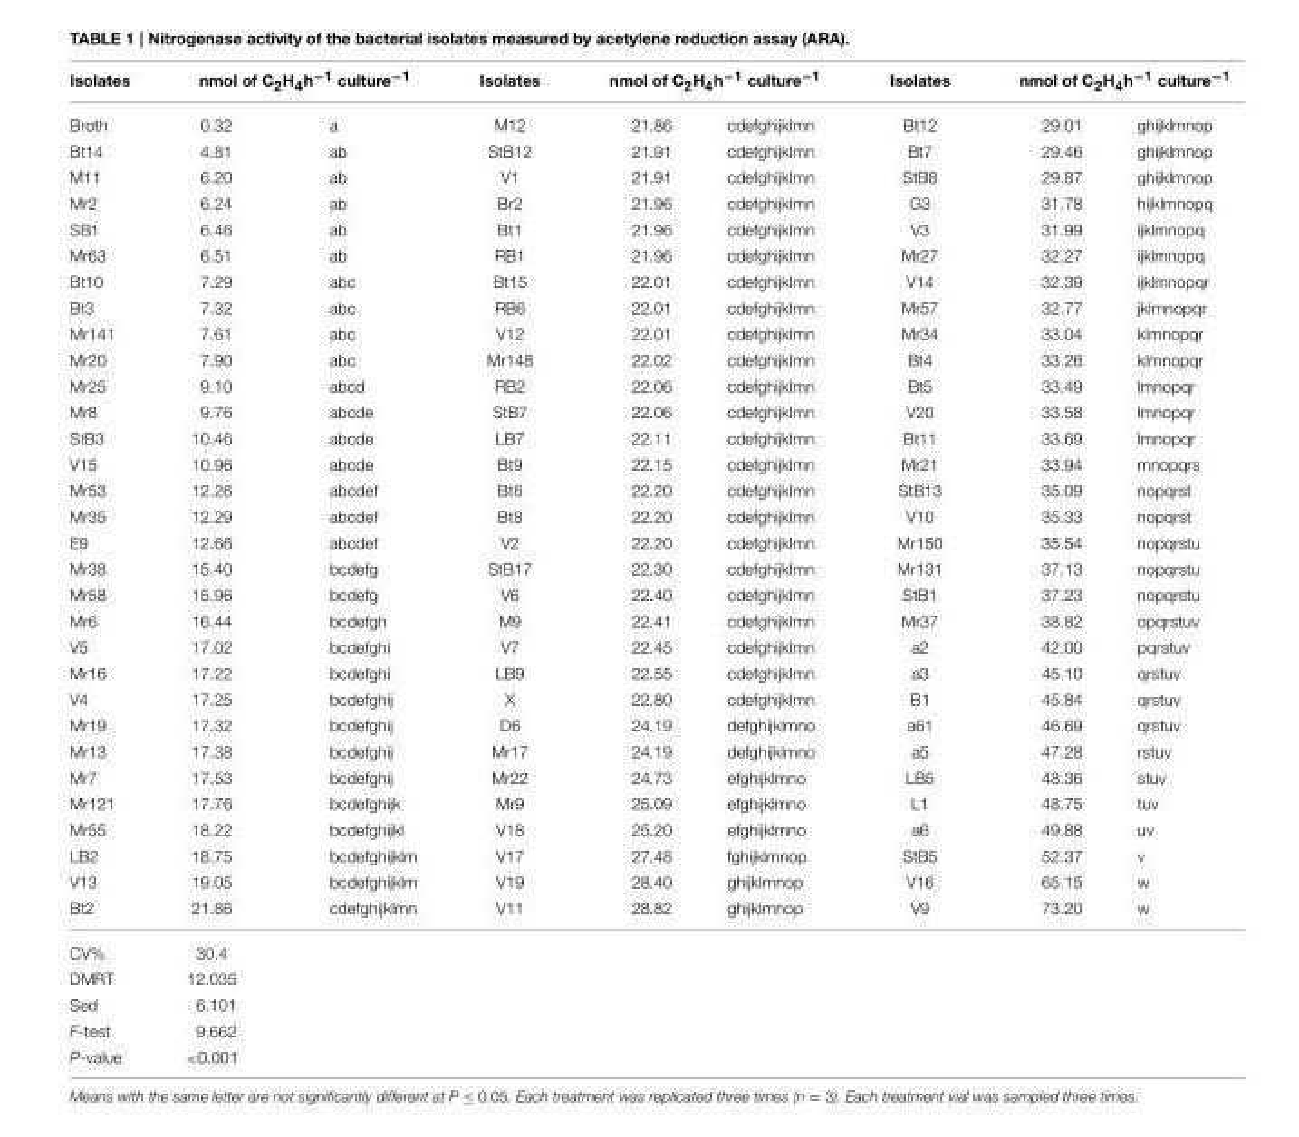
<table><thead><tr><td rowspan="2">Isolates Broth</td><td colspan="2">nmol of C<sub>2</sub>H<sub>4</sub>h<sup>−1</sup> culture<sup>−1</sup></td><td rowspan="2">Isolates M12</td><td colspan="2">nmol of C<sub>2</sub>H<sub>4</sub>h<sup>−1</sup> culture<sup>−1</sup></td><td rowspan="2">Isolates Bt12</td><td colspan="2">nmol of C<sub>2</sub>H<sub>4</sub>h<sup>−1</sup> culture<sup>−1</sup></td></tr><tr><td>0.32</td><td>a</td><td>21.86</td><td>cdefghijklmn</td><td>29.01</td><td>ghijklmnop</td></tr></thead><tbody><tr><td>Bt14</td><td>4.81</td><td>ab</td><td>StB12</td><td>21.91</td><td>cdefghijklmn</td><td>Bt7</td><td>29.46</td><td>ghijklmnop</td></tr><tr><td>M11</td><td>6.20</td><td>ab</td><td>V1</td><td>21.91</td><td>cdefghijklmn</td><td>StB8</td><td>29.87</td><td>ghijklmnop</td></tr><tr><td>Mr2</td><td>6.24</td><td>ab</td><td>Br2</td><td>21.96</td><td>cdefghijklmn</td><td>G3</td><td>31.78</td><td>hijklmnopq</td></tr><tr><td>SB1</td><td>6.46</td><td>ab</td><td>Bt1</td><td>21.96</td><td>cdefghijklmn</td><td>V3</td><td>31.99</td><td>ijklmnopq</td></tr><tr><td>Mr63</td><td>6.51</td><td>ab</td><td>RB1</td><td>21.96</td><td>cdefghijklmn</td><td>Mr27</td><td>32.27</td><td>ijklmnopq</td></tr><tr><td>Bt10</td><td>7.29</td><td>abc</td><td>Bt15</td><td>22.01</td><td>cdefghijklmn</td><td>V14</td><td>32.39</td><td>ijklmnopqr</td></tr><tr><td>Bt3</td><td>7.32</td><td>abc</td><td>RB6</td><td>22.01</td><td>cdefghijklmn</td><td>Mr57</td><td>32.77</td><td>jklmnopqr</td></tr><tr><td>Mr141</td><td>7.61</td><td>abc</td><td>V12</td><td>22.01</td><td>cdefghijklmn</td><td>Mr34</td><td>33.04</td><td>klmnopqr</td></tr><tr><td>Mr20</td><td>7.90</td><td>abc</td><td>Mr148</td><td>22.02</td><td>cdefghijklmn</td><td>Bt4</td><td>33.26</td><td>klmnopqr</td></tr><tr><td>Mr25</td><td>9.10</td><td>abcd</td><td>RB2</td><td>22.06</td><td>cdefghijklmn</td><td>Bt5</td><td>33.49</td><td>lmnopqr</td></tr><tr><td>Mr8</td><td>9.76</td><td>abcde</td><td>StB7</td><td>22.06</td><td>cdefghijklmn</td><td>V20</td><td>33.58</td><td>lmnopqr</td></tr><tr><td>StB3</td><td>10.46</td><td>abcde</td><td>LB7</td><td>22.11</td><td>cdefghijklmn</td><td>Bt11</td><td>33.69</td><td>lmnopqr</td></tr><tr><td>V15</td><td>10.96</td><td>abcde</td><td>Bt9</td><td>22.15</td><td>cdefghijklmn</td><td>Mr21</td><td>33.94</td><td>mnopqrs</td></tr><tr><td>Mr53</td><td>12.26</td><td>abcdef</td><td>Bt6</td><td>22.20</td><td>cdefghijklmn</td><td>StB13</td><td>35.09</td><td>nopqrst</td></tr><tr><td>Mr35</td><td>12.29</td><td>abcdef</td><td>Bt8</td><td>22.20</td><td>cdefghijklmn</td><td>V10</td><td>35.33</td><td>nopqrst</td></tr><tr><td>E9</td><td>12.66</td><td>abcdef</td><td>V2</td><td>22.20</td><td>cdefghijklmn</td><td>Mr150</td><td>35.54</td><td>nopqrstu</td></tr><tr><td>Mr38</td><td>15.40</td><td>bcdefg</td><td>StB17</td><td>22.30</td><td>cdefghijklmn</td><td>Mr131</td><td>37.13</td><td>nopqrstu</td></tr><tr><td>Mr58</td><td>15.96</td><td>bcdefg</td><td>V6</td><td>22.40</td><td>cdefghijklmn</td><td>StB1</td><td>37.23</td><td>nopqrstu</td></tr><tr><td>Mr6</td><td>16.44</td><td>bcdefgh</td><td>M9</td><td>22.41</td><td>cdefghijklmn</td><td>Mr37</td><td>38.82</td><td>opqrstuv</td></tr><tr><td>V5</td><td>17.02</td><td>bcdefghi</td><td>V7</td><td>22.45</td><td>cdefghijklmn</td><td>a2</td><td>42.00</td><td>pqrstuv</td></tr><tr><td>Mr16</td><td>17.22</td><td>bcdefghi</td><td>LB9</td><td>22.55</td><td>cdefghijklmn</td><td>a3</td><td>45.10</td><td>qrstuv</td></tr><tr><td>V4</td><td>17.25</td><td>bcdefghij</td><td>X</td><td>22.80</td><td>cdefghijklmn</td><td>B1</td><td>45.84</td><td>qrstuv</td></tr><tr><td>Mr19</td><td>17.32</td><td>bcdefghij</td><td>D6</td><td>24.19</td><td>defghijklmno</td><td>a61</td><td>46.69</td><td>qrstuv</td></tr><tr><td>Mr13</td><td>17.38</td><td>bcdefghij</td><td>Mr17</td><td>24.19</td><td>defghijklmno</td><td>a5</td><td>47.28</td><td>rstuv</td></tr><tr><td>Mr7</td><td>17.53</td><td>bcdefghij</td><td>Mr22</td><td>24.73</td><td>efghijklmno</td><td>LB5</td><td>48.36</td><td>stuv</td></tr><tr><td>Mr121</td><td>17.76</td><td>bcdefghijk</td><td>Mr9</td><td>25.09</td><td>efghijklmno</td><td>L1</td><td>48.75</td><td>tuv</td></tr><tr><td>Mr55</td><td>18.22</td><td>bcdefghijkl</td><td>V18</td><td>25.20</td><td>efghijklmno</td><td>a6</td><td>49.88</td><td>uv</td></tr><tr><td>LB2</td><td>18.75</td><td>bcdefghijklm</td><td>V17</td><td>27.48</td><td>fghijklmnop</td><td>StB5</td><td>52.37</td><td>v</td></tr><tr><td>V13</td><td>19.05</td><td>bcdefghijklm</td><td>V19</td><td>28.40</td><td>ghijklmnop</td><td>V16</td><td>65.15</td><td>w</td></tr><tr><td>Bt2</td><td>21.86</td><td>cdefghijklmn</td><td>V11</td><td>28.82</td><td>ghijklmnop</td><td>V9</td><td>73.20</td><td>w</td></tr><tr><td>CV%</td><td>30.4</td><td></td><td></td><td></td><td></td><td></td><td></td><td></td></tr><tr><td>DMRT</td><td>12.035</td><td></td><td></td><td></td><td></td><td></td><td></td><td></td></tr><tr><td>Sed</td><td>6.101</td><td></td><td></td><td></td><td></td><td></td><td></td><td></td></tr><tr><td>F-test</td><td>9.662</td><td></td><td></td><td></td><td></td><td></td><td></td><td></td></tr><tr><td>P-value</td><td>&lt;0.001</td><td></td><td></td><td></td><td></td><td></td><td></td><td></td></tr></tbody></table>